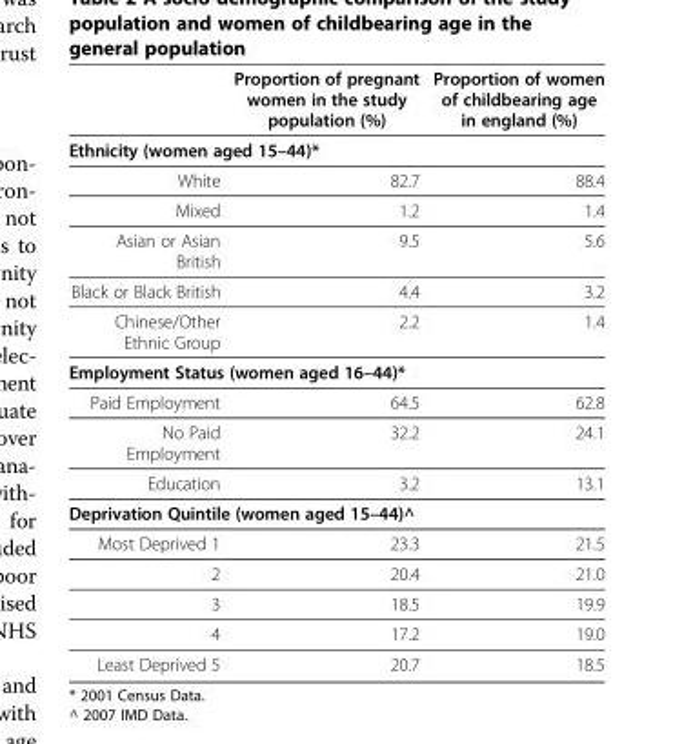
<table><thead><tr><td></td><td>Proportion of pregnant women in the study population (%)</td><td>Proportion of women of childbearing age in england (%)</td></tr></thead><tbody><tr><td colspan="3">Ethnicity (women aged 15–44)*</td></tr><tr><td>White</td><td>82.7</td><td>88.4</td></tr><tr><td>Mixed</td><td>1.2</td><td>1.4</td></tr><tr><td>Asian or Asian British</td><td>9.5</td><td>5.6</td></tr><tr><td>Black or Black British</td><td>4.4</td><td>3.2</td></tr><tr><td>Chinese/Other Ethnic Group</td><td>2.2</td><td>1.4</td></tr><tr><td colspan="3">Employment Status (women aged 16–44)*</td></tr><tr><td>Paid Employment</td><td>64.5</td><td>62.8</td></tr><tr><td>No Paid Employment</td><td>32.2</td><td>24.1</td></tr><tr><td>Education</td><td>3.2</td><td>13.1</td></tr><tr><td colspan="3">Deprivation Quintile (women aged 15–44)^</td></tr><tr><td>Most Deprived 1</td><td>23.3</td><td>21.5</td></tr><tr><td>2</td><td>20.4</td><td>21.0</td></tr><tr><td>3</td><td>18.5</td><td>19.9</td></tr><tr><td>4</td><td>17.2</td><td>19.0</td></tr><tr><td>Least Deprived 5</td><td>20.7</td><td>18.5</td></tr></tbody></table>